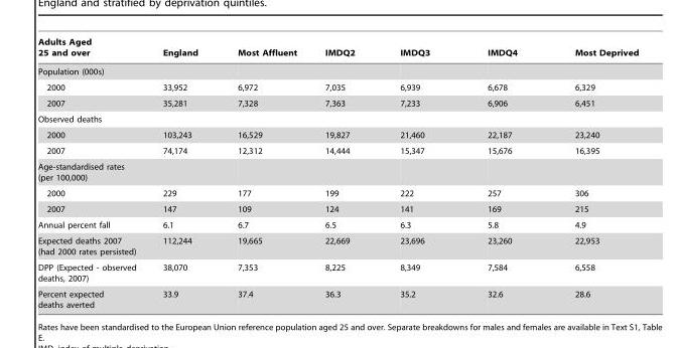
<table><thead><tr><td>Adults Aged 25 and over</td><td>England</td><td>Most Affluent</td><td>IMDQ2</td><td>IMDQ3</td><td>IMDQ4</td><td>Most Deprived</td></tr></thead><tbody><tr><td colspan="7">Population (000s)</td></tr><tr><td>2000</td><td>33,952</td><td>6,972</td><td>7,035</td><td>6,939</td><td>6,678</td><td>6,329</td></tr><tr><td>2007</td><td>35,281</td><td>7,328</td><td>7,363</td><td>7,233</td><td>6,906</td><td>6,451</td></tr><tr><td colspan="7">Observed deaths</td></tr><tr><td>2000</td><td>103,243</td><td>16,529</td><td>19,827</td><td>21,460</td><td>22,187</td><td>23,240</td></tr><tr><td>2007</td><td>74,174</td><td>12,312</td><td>14,444</td><td>15,347</td><td>15,676</td><td>16,395</td></tr><tr><td colspan="7">Age-standardised rates (per 100,000)</td></tr><tr><td>2000</td><td>229</td><td>177</td><td>199</td><td>222</td><td>257</td><td>306</td></tr><tr><td>2007</td><td>147</td><td>109</td><td>124</td><td>141</td><td>169</td><td>215</td></tr><tr><td>Annual percent fall</td><td>6.1</td><td>6.7</td><td>6.5</td><td>6.3</td><td>5.8</td><td>4.9</td></tr><tr><td>Expected deaths 2007 (had 2000 rates persisted)</td><td>112,244</td><td>19,665</td><td>22,669</td><td>23,696</td><td>23,260</td><td>22,953</td></tr><tr><td>DPP (Expected - observed deaths, 2007)</td><td>38,070</td><td>7,353</td><td>8,225</td><td>8,349</td><td>7,584</td><td>6,558</td></tr><tr><td>Percent expected deaths averted</td><td>33.9</td><td>37.4</td><td>36.3</td><td>35.2</td><td>32.6</td><td>28.6</td></tr></tbody></table>